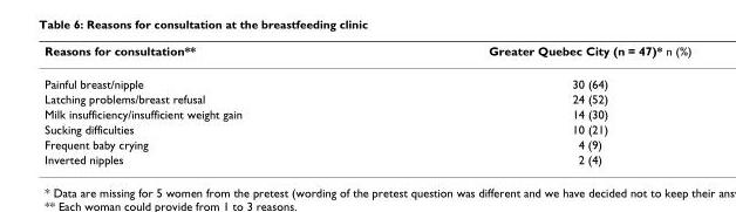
<table><thead><tr><td>Reasons for consultation**</td><td>Greater Quebec City (n = 47)* n (%)</td></tr></thead><tbody><tr><td>Painful breast/nipple</td><td>30 (64)</td></tr><tr><td>Latching problems/breast refusal</td><td>24 (52)</td></tr><tr><td>Milk insufficiency/insufficient weight gain</td><td>14 (30)</td></tr><tr><td>Sucking difficulties</td><td>10 (21)</td></tr><tr><td>Frequent baby crying</td><td>4 (9)</td></tr><tr><td>Inverted nipples</td><td>2 (4)</td></tr></tbody></table>